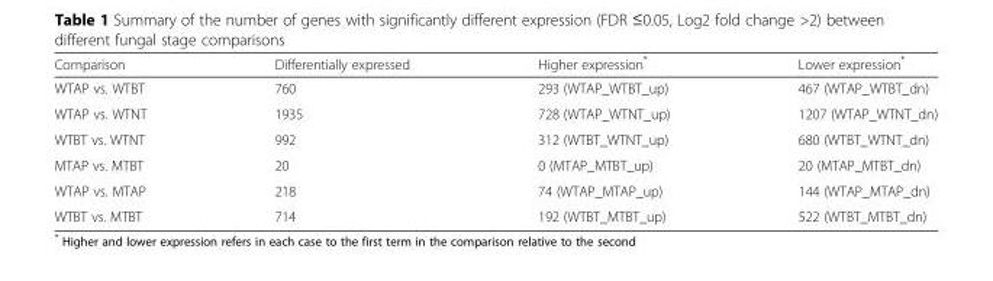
<table><thead><tr><td>Comparison</td><td>Differentially expressed</td><td>Higher expression*</td><td>Lower expression*</td></tr></thead><tbody><tr><td>WTAP vs. WTBT</td><td>760</td><td>293 (WTAP_WTBT_up)</td><td>467 (WTAP_WTBT_dn)</td></tr><tr><td>WTAP vs. WTNT</td><td>1935</td><td>728 (WTAP_WTNT_up)</td><td>1207 (WTAP_WTNT_dn)</td></tr><tr><td>WTBT vs. WTNT</td><td>992</td><td>312 (WTBT_WTNT_up)</td><td>680 (WTBT_WTNT_dn)</td></tr><tr><td>MTAP vs. MTBT</td><td>20</td><td>0 (MTAP_MTBT_up)</td><td>20 (MTAP_MTBT_dn)</td></tr><tr><td>WTAP vs. MTAP</td><td>218</td><td>74 (WTAP_MTAP_up)</td><td>144 (WTAP_MTAP_dn)</td></tr><tr><td>WTBT vs. MTBT</td><td>714</td><td>192 (WTBT_MTBT_up)</td><td>522 (WTBT_MTBT_dn)</td></tr></tbody></table>